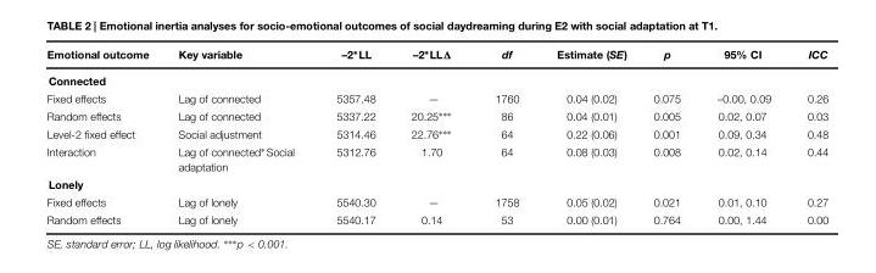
<table><thead><tr><td>Emotional outcome</td><td>Key variable</td><td>–2∗LL</td><td>–2∗LLΔ</td><td>df</td><td>Estimate (SE)</td><td>p</td><td>95% CI</td><td>ICC</td></tr></thead><tbody><tr><td colspan="9">Connected</td></tr><tr><td>Fixed effects</td><td>Lag of connected</td><td>5357.48</td><td>—</td><td>1760</td><td>0.04 (0.02)</td><td>0.075</td><td>–0.00, 0.09</td><td>0.26</td></tr><tr><td>Random effects</td><td>Lag of connected</td><td>5337.22</td><td>20.25∗∗∗</td><td>86</td><td>0.04 (0.01)</td><td>0.005</td><td>0.02, 0.07</td><td>0.03</td></tr><tr><td>Level-2 fixed effect</td><td>Social adjustment</td><td>5314.46</td><td>22.76∗∗∗</td><td>64</td><td>0.22 (0.06)</td><td>0.001</td><td>0.09, 0.34</td><td>0.48</td></tr><tr><td>Interaction</td><td>Lag of connected∗Social adaptation</td><td>5312.76</td><td>1.70</td><td>64</td><td>0.08 (0.03)</td><td>0.008</td><td>0.02, 0.14</td><td>0.44</td></tr><tr><td colspan="9">Lonely</td></tr><tr><td>Fixed effects</td><td>Lag of lonely</td><td>5540.30</td><td>—</td><td>1758</td><td>0.05 (0.02)</td><td>0.021</td><td>0.01, 0.10</td><td>0.27</td></tr><tr><td>Random effects</td><td>Lag of lonely</td><td>5540.17</td><td>0.14</td><td>53</td><td>0.00 (0.01)</td><td>0.764</td><td>0.00, 1.44</td><td>0.00</td></tr></tbody></table>